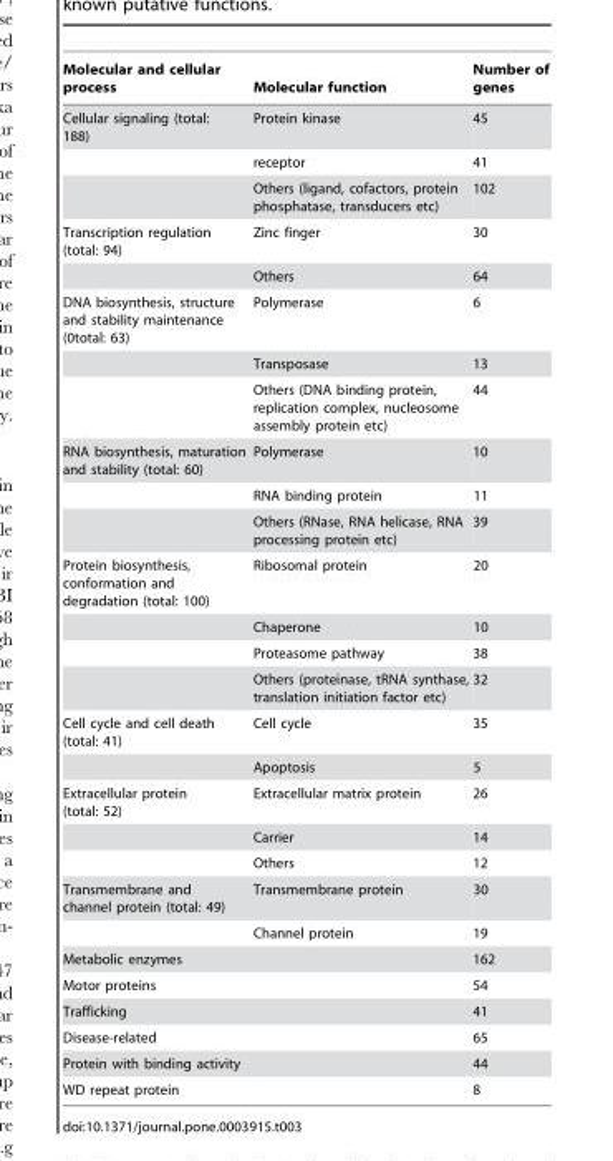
<table><thead><tr><td>Molecular and cellular process</td><td>Molecular function</td><td>Number of genes</td></tr></thead><tbody><tr><td rowspan="3">Cellular signaling (total: 188)</td><td>Protein kinase</td><td>45</td></tr><tr><td>receptor</td><td>41</td></tr><tr><td>Others (ligand, cofactors, protein phosphatase, transducers etc)</td><td>102</td></tr><tr><td rowspan="2">Transcription regulation (total: 94)</td><td>Zinc finger</td><td>30</td></tr><tr><td>Others</td><td>64</td></tr><tr><td rowspan="3">DNA biosynthesis, structure and stability maintenance (0total: 63)</td><td>Polymerase</td><td>6</td></tr><tr><td>Transposase</td><td>13</td></tr><tr><td>Others (DNA binding protein, replication complex, nucleosome assembly protein etc)</td><td>44</td></tr><tr><td rowspan="3">RNA biosynthesis, maturation and stability (total: 60)</td><td>Polymerase</td><td>10</td></tr><tr><td>RNA binding protein</td><td>11</td></tr><tr><td>Others (RNase, RNA helicase, RNA processing protein etc)</td><td>39</td></tr><tr><td rowspan="4">Protein biosynthesis, conformation and degradation (total: 100)</td><td>Ribosomal protein</td><td>20</td></tr><tr><td>Chaperone</td><td>10</td></tr><tr><td>Proteasome pathway</td><td>38</td></tr><tr><td>Others (proteinase, tRNA synthase, translation initiation factor etc)</td><td>32</td></tr><tr><td rowspan="2">Cell cycle and cell death (total: 41)</td><td>Cell cycle</td><td>35</td></tr><tr><td>Apoptosis</td><td>5</td></tr><tr><td rowspan="3">Extracellular protein (total: 52)</td><td>Extracellular matrix protein</td><td>26</td></tr><tr><td>Carrier</td><td>14</td></tr><tr><td>Others</td><td>12</td></tr><tr><td rowspan="2">Transmembrane and channel protein (total: 49)</td><td>Transmembrane protein</td><td>30</td></tr><tr><td>Channel protein</td><td>19</td></tr><tr><td>Metabolic enzymes</td><td></td><td>162</td></tr><tr><td>Motor proteins</td><td></td><td>54</td></tr><tr><td>Trafficking</td><td></td><td>41</td></tr><tr><td>Disease-related</td><td></td><td>65</td></tr><tr><td>Protein with binding activity</td><td></td><td>44</td></tr><tr><td>WD repeat protein</td><td></td><td>8</td></tr></tbody></table>